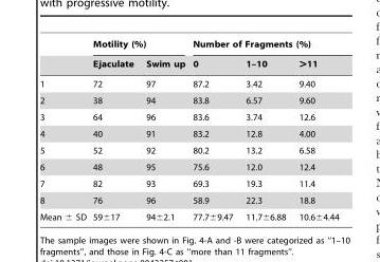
<table><thead><tr><td rowspan="2"></td><td colspan="2">Motility (%)</td><td colspan="3">Number of Fragments (%)</td></tr><tr><td>Ejaculate</td><td>Swim up</td><td>0</td><td>1–10</td><td>&gt;11</td></tr></thead><tbody><tr><td>1</td><td>72</td><td>97</td><td>87.2</td><td>3.42</td><td>9.40</td></tr><tr><td>2</td><td>38</td><td>94</td><td>83.8</td><td>6.57</td><td>9.60</td></tr><tr><td>3</td><td>64</td><td>96</td><td>83.6</td><td>3.74</td><td>12.6</td></tr><tr><td>4</td><td>40</td><td>91</td><td>83.2</td><td>12.8</td><td>4.00</td></tr><tr><td>5</td><td>52</td><td>92</td><td>80.2</td><td>13.2</td><td>6.58</td></tr><tr><td>6</td><td>48</td><td>95</td><td>75.6</td><td>12.0</td><td>12.4</td></tr><tr><td>7</td><td>82</td><td>93</td><td>69.3</td><td>19.3</td><td>11.4</td></tr><tr><td>8</td><td>76</td><td>96</td><td>58.9</td><td>22.3</td><td>18.8</td></tr><tr><td>Mean ± SD</td><td>59±17</td><td>94±2.1</td><td>77.7±9.47</td><td>11.7±6.88</td><td>10.6±4.44</td></tr></tbody></table>